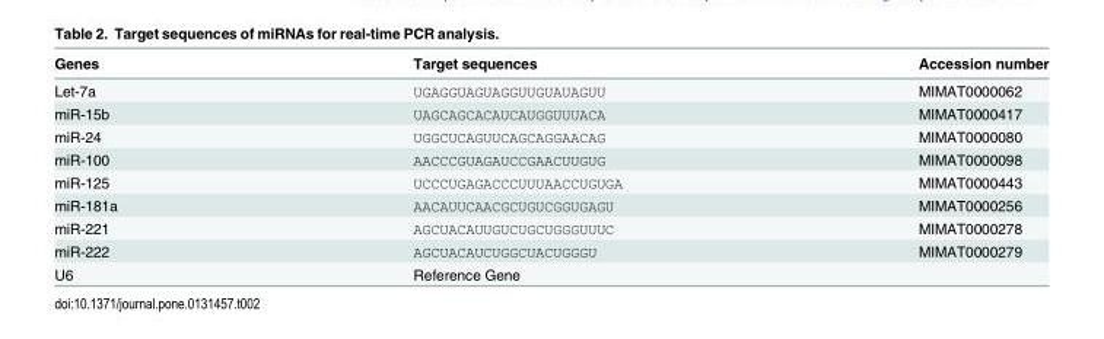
<table><thead><tr><td>Genes</td><td>Target sequences</td><td>Accession number</td></tr></thead><tbody><tr><td>Let-7a</td><td>UGAGGUAGUAGGUUGUAUAGUU</td><td>MIMAT0000062</td></tr><tr><td>miR-15b</td><td>UAGCAGCACAUCAUGGUUUACA</td><td>MIMAT0000417</td></tr><tr><td>miR-24</td><td>UGGCUCAGUUCAGCAGGAACAG</td><td>MIMAT0000080</td></tr><tr><td>miR-100</td><td>AACCCGUAGAUCCGAACUUGUG</td><td>MIMAT0000098</td></tr><tr><td>miR-125</td><td>UCCCUGAGACCCUUUAACCUGUGA</td><td>MIMAT0000443</td></tr><tr><td>miR-181a</td><td>AACAUUCAACGCUGUCGGUGAGU</td><td>MIMAT0000256</td></tr><tr><td>miR-221</td><td>AGCUACAUUGUCUGCUGGGUUUC</td><td>MIMAT0000278</td></tr><tr><td>miR-222</td><td>AGCUACAUCUGGCUACUGGGU</td><td>MIMAT0000279</td></tr><tr><td>U6</td><td>Reference Gene</td><td></td></tr></tbody></table>